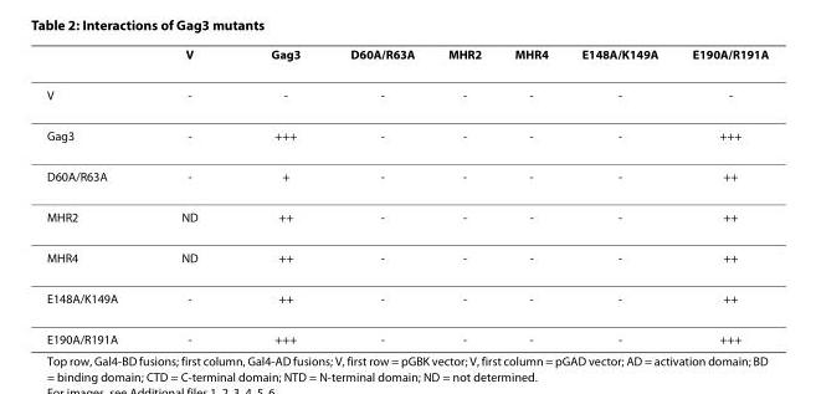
<table><thead><tr><td></td><td>V</td><td>Gag3</td><td>D60A/R63A</td><td>MHR2</td><td>MHR4</td><td>E148A/K149A</td><td>E190A/R191A</td></tr></thead><tbody><tr><td>V</td><td>-</td><td>-</td><td>-</td><td>-</td><td>-</td><td>-</td><td>-</td></tr><tr><td>Gag3</td><td>-</td><td>+++</td><td>-</td><td>-</td><td>-</td><td>-</td><td>+++</td></tr><tr><td>D60A/R63A</td><td>-</td><td>+</td><td>-</td><td>-</td><td>-</td><td>-</td><td>++</td></tr><tr><td>MHR2</td><td>ND</td><td>++</td><td>-</td><td>-</td><td>-</td><td>-</td><td>++</td></tr><tr><td>MHR4</td><td>ND</td><td>++</td><td>-</td><td>-</td><td>-</td><td>-</td><td>++</td></tr><tr><td>E148A/K149A</td><td>-</td><td>++</td><td>-</td><td>-</td><td>-</td><td>-</td><td>++</td></tr><tr><td>E190A/R191A</td><td>-</td><td>+++</td><td>-</td><td>-</td><td>-</td><td>-</td><td>+++</td></tr></tbody></table>